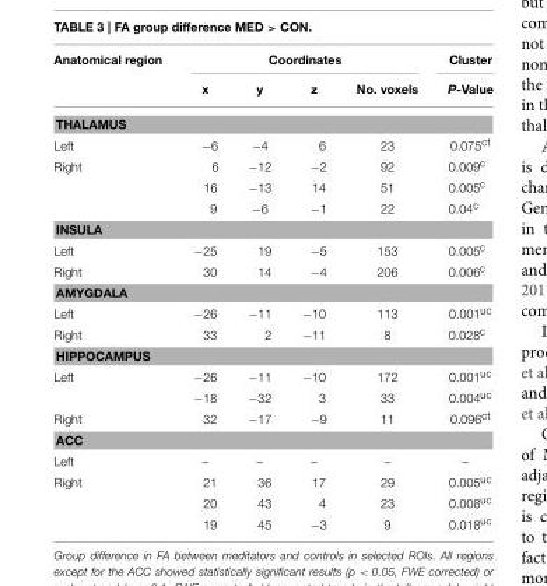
<table><thead><tr><td rowspan="2">Anatomical region</td><td colspan="4">Coordinates</td><td rowspan="2">Cluster P-Value</td></tr><tr><td>x</td><td>y</td><td>z</td><td>No. voxels</td></tr></thead><tbody><tr><td colspan="6">THALAMUS</td></tr><tr><td>Left</td><td>−6</td><td>−4</td><td>6</td><td>23</td><td>0.075<sup>ct</sup></td></tr><tr><td rowspan="3">Right</td><td>6</td><td>−12</td><td>−2</td><td>92</td><td>0.009<sup>c</sup></td></tr><tr><td>16</td><td>−13</td><td>14</td><td>51</td><td>0.005<sup>c</sup></td></tr><tr><td>9</td><td>−6</td><td>−1</td><td>22</td><td>0.04<sup>c</sup></td></tr><tr><td colspan="6">INSULA</td></tr><tr><td>Left</td><td>−25</td><td>19</td><td>−5</td><td>153</td><td>0.005<sup>c</sup></td></tr><tr><td>Right</td><td>30</td><td>14</td><td>−4</td><td>206</td><td>0.006<sup>c</sup></td></tr><tr><td colspan="6">AMYGDALA</td></tr><tr><td>Left</td><td>−26</td><td>−11</td><td>−10</td><td>113</td><td>0.001<sup>uc</sup></td></tr><tr><td>Right</td><td>33</td><td>2</td><td>−11</td><td>8</td><td>0.028<sup>c</sup></td></tr><tr><td colspan="6">HIPPOCAMPUS</td></tr><tr><td rowspan="2">Left</td><td>−26</td><td>−11</td><td>−10</td><td>172</td><td>0.001<sup>uc</sup></td></tr><tr><td>−18</td><td>−32</td><td>3</td><td>33</td><td>0.004<sup>uc</sup></td></tr><tr><td>Right</td><td>32</td><td>−17</td><td>−9</td><td>11</td><td>0.096<sup>ct</sup></td></tr><tr><td colspan="6">ACC</td></tr><tr><td>Left</td><td>–</td><td>–</td><td>–</td><td>–</td><td>–</td></tr><tr><td rowspan="3">Right</td><td>21</td><td>36</td><td>17</td><td>29</td><td>0.005<sup>uc</sup></td></tr><tr><td>20</td><td>43</td><td>4</td><td>23</td><td>0.008<sup>uc</sup></td></tr><tr><td>19</td><td>45</td><td>−3</td><td>9</td><td>0.018<sup>uc</sup></td></tr></tbody></table>